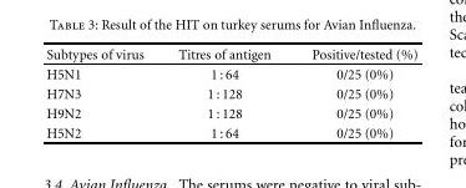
<table><thead><tr><td>Subtypes of virus</td><td>Titres of antigen</td><td>Positive/tested (%)</td></tr></thead><tbody><tr><td>H5N1</td><td>1 : 64</td><td>0/25 (0%)</td></tr><tr><td>H7N3</td><td>1 : 128</td><td>0/25 (0%)</td></tr><tr><td>H9N2</td><td>1 : 128</td><td>0/25 (0%)</td></tr><tr><td>H5N2</td><td>1 : 64</td><td>0/25 (0%)</td></tr></tbody></table>